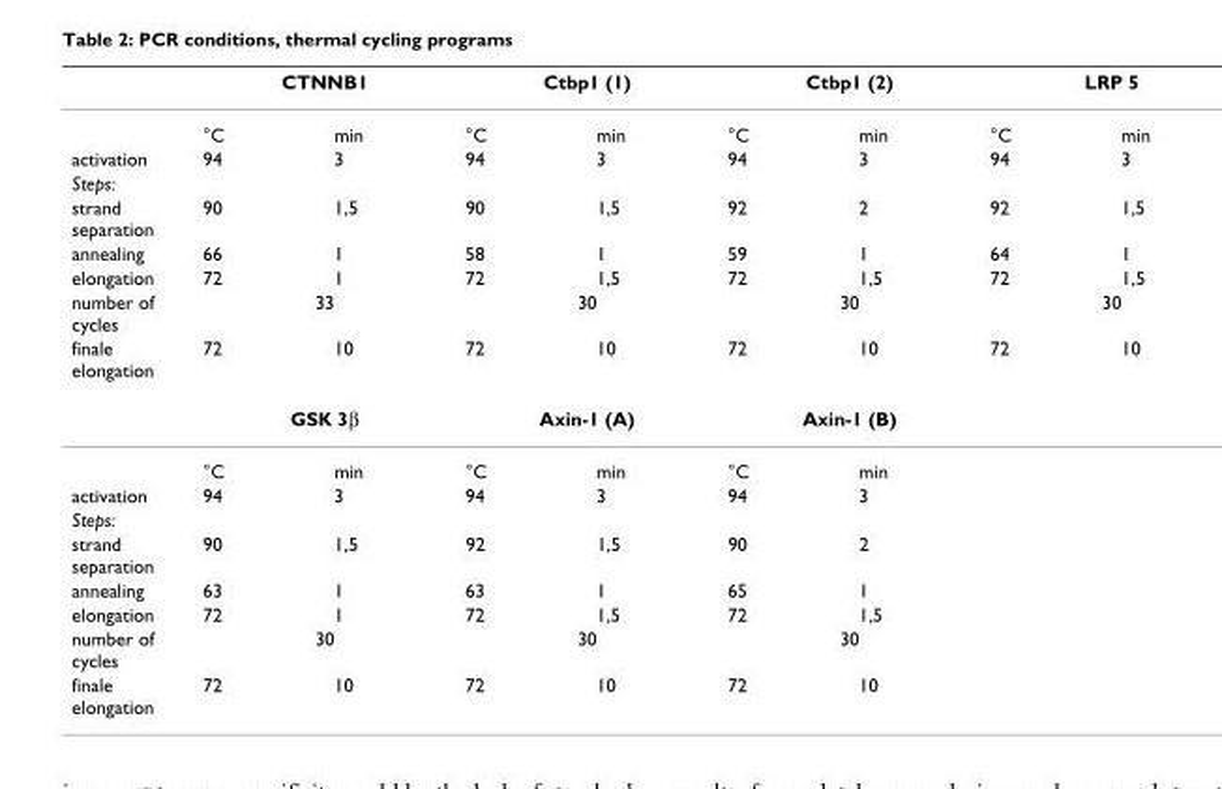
<table><thead><tr><td rowspan="2"></td><td colspan="2">CTNNB1</td><td colspan="2">Ctbp1 (1)</td><td colspan="2">Ctbp1 (2)</td><td colspan="2">LRP 5</td></tr><tr><td>°C</td><td>min</td><td>°C</td><td>min</td><td>°C</td><td>min</td><td>°C</td><td>min</td></tr></thead><tbody><tr><td>activation</td><td>94</td><td>3</td><td>94</td><td>3</td><td>94</td><td>3</td><td>94</td><td>3</td></tr><tr><td colspan="9">Steps:</td></tr><tr><td>strand separation</td><td>90</td><td>1,5</td><td>90</td><td>1,5</td><td>92</td><td>2</td><td>92</td><td>1,5</td></tr><tr><td>annealing</td><td>66</td><td>1</td><td>58</td><td>1</td><td>59</td><td>1</td><td>64</td><td>1</td></tr><tr><td>elongation</td><td>72</td><td>1</td><td>72</td><td>1,5</td><td>72</td><td>1,5</td><td>72</td><td>1,5</td></tr><tr><td>number of cycles</td><td colspan="2">33</td><td colspan="2">30</td><td colspan="2">30</td><td colspan="2">30</td></tr><tr><td rowspan="3">finale elongation</td><td>72</td><td>10</td><td>72</td><td>10</td><td>72</td><td>10</td><td>72</td><td>10</td></tr><tr><td colspan="2">GSK 3β</td><td colspan="2">Axin-1 (A)</td><td colspan="2">Axin-1 (B)</td><td></td><td></td></tr><tr><td>°C</td><td>min</td><td>°C</td><td>min</td><td>°C</td><td>min</td><td></td><td></td></tr><tr><td>activation</td><td>94</td><td>3</td><td>94</td><td>3</td><td>94</td><td>3</td><td></td><td></td></tr><tr><td colspan="9">Steps:</td></tr><tr><td>strand separation</td><td>90</td><td>1,5</td><td>92</td><td>1,5</td><td>90</td><td>2</td><td></td><td></td></tr><tr><td>annealing</td><td>63</td><td>1</td><td>63</td><td>1</td><td>65</td><td>1</td><td></td><td></td></tr><tr><td>elongation</td><td>72</td><td>1</td><td>72</td><td>1,5</td><td>72</td><td>1,5</td><td></td><td></td></tr><tr><td>number of cycles</td><td colspan="2">30</td><td colspan="2">30</td><td colspan="2">30</td><td></td><td></td></tr><tr><td>finale elongation</td><td>72</td><td>10</td><td>72</td><td>10</td><td>72</td><td>10</td><td></td><td></td></tr></tbody></table>